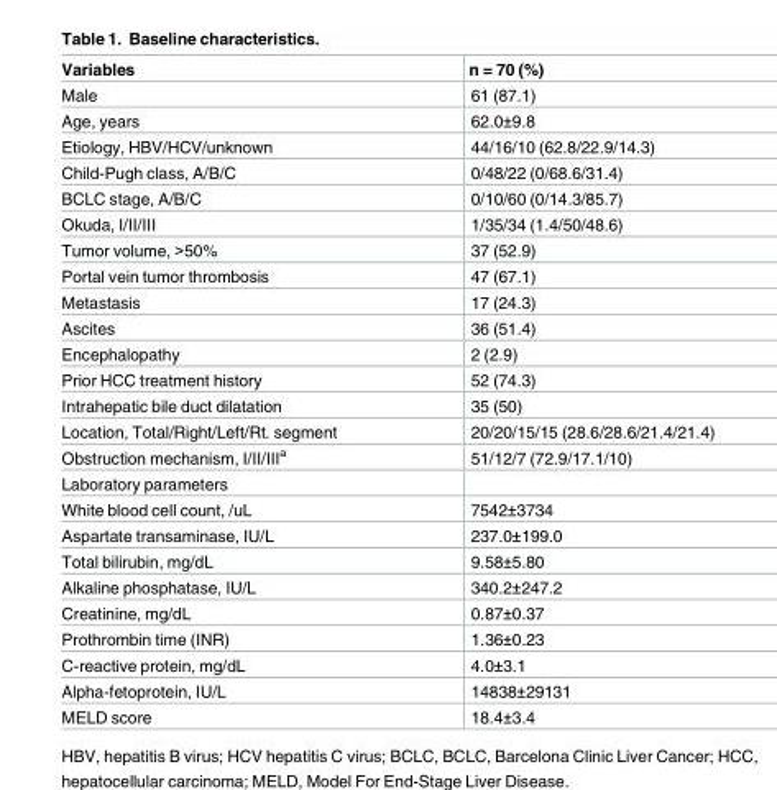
<table><thead><tr><td>Variables</td><td>n = 70 (%)</td></tr></thead><tbody><tr><td>Male</td><td>61 (87.1)</td></tr><tr><td>Age, years</td><td>62.0±9.8</td></tr><tr><td>Etiology, HBV/HCV/unknown</td><td>44/16/10 (62.8/22.9/14.3)</td></tr><tr><td>Child-Pugh class, A/B/C</td><td>0/48/22 (0/68.6/31.4)</td></tr><tr><td>BCLC stage, A/B/C</td><td>0/10/60 (0/14.3/85.7)</td></tr><tr><td>Okuda, I/II/III</td><td>1/35/34 (1.4/50/48.6)</td></tr><tr><td>Tumor volume, &gt;50%</td><td>37 (52.9)</td></tr><tr><td>Portal vein tumor thrombosis</td><td>47 (67.1)</td></tr><tr><td>Metastasis</td><td>17 (24.3)</td></tr><tr><td>Ascites</td><td>36 (51.4)</td></tr><tr><td>Encephalopathy</td><td>2 (2.9)</td></tr><tr><td>Prior HCC treatment history</td><td>52 (74.3)</td></tr><tr><td>Intrahepatic bile duct dilatation</td><td>35 (50)</td></tr><tr><td>Location, Total/Right/Left/Rt. segment</td><td>20/20/15/15 (28.6/28.6/21.4/21.4)</td></tr><tr><td>Obstruction mechanism, I/II/III<sup>a</sup></td><td>51/12/7 (72.9/17.1/10)</td></tr><tr><td colspan="2">Laboratory parameters</td></tr><tr><td>White blood cell count, /uL</td><td>7542±3734</td></tr><tr><td>Aspartate transaminase, IU/L</td><td>237.0±199.0</td></tr><tr><td>Total bilirubin, mg/dL</td><td>9.58±5.80</td></tr><tr><td>Alkaline phosphatase, IU/L</td><td>340.2±247.2</td></tr><tr><td>Creatinine, mg/dL</td><td>0.87±0.37</td></tr><tr><td>Prothrombin time (INR)</td><td>1.36±0.23</td></tr><tr><td>C-reactive protein, mg/dL</td><td>4.0±3.1</td></tr><tr><td>Alpha-fetoprotein, IU/L</td><td>14838±29131</td></tr><tr><td>MELD score</td><td>18.4±3.4</td></tr></tbody></table>